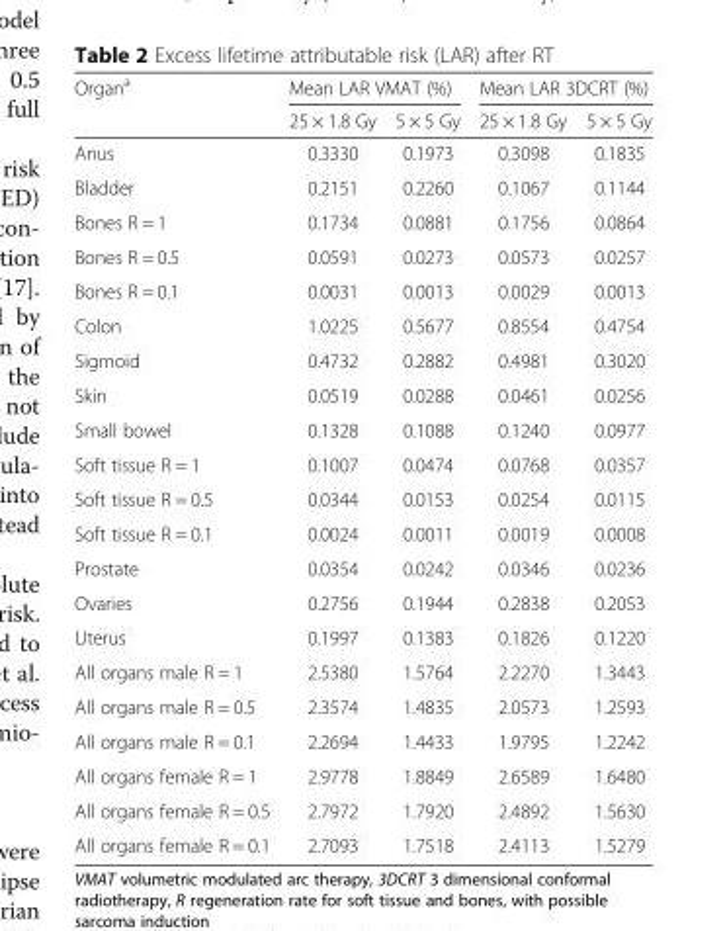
<table><thead><tr><td rowspan="2">Organ<sup>a</sup></td><td colspan="2">Mean LAR VMAT (%)</td><td colspan="2">Mean LAR 3DCRT (%)</td></tr><tr><td>25 × 1.8 Gy</td><td>5 × 5 Gy</td><td>25 × 1.8 Gy</td><td>5 × 5 Gy</td></tr></thead><tbody><tr><td>Anus</td><td>0.3330</td><td>0.1973</td><td>0.3098</td><td>0.1835</td></tr><tr><td>Bladder</td><td>0.2151</td><td>0.2260</td><td>0.1067</td><td>0.1144</td></tr><tr><td>Bones R = 1</td><td>0.1734</td><td>0.0881</td><td>0.1756</td><td>0.0864</td></tr><tr><td>Bones R = 0.5</td><td>0.0591</td><td>0.0273</td><td>0.0573</td><td>0.0257</td></tr><tr><td>Bones R = 0.1</td><td>0.0031</td><td>0.0013</td><td>0.0029</td><td>0.0013</td></tr><tr><td>Colon</td><td>1.0225</td><td>0.5677</td><td>0.8554</td><td>0.4754</td></tr><tr><td>Sigmoid</td><td>0.4732</td><td>0.2882</td><td>0.4981</td><td>0.3020</td></tr><tr><td>Skin</td><td>0.0519</td><td>0.0288</td><td>0.0461</td><td>0.0256</td></tr><tr><td>Small bowel</td><td>0.1328</td><td>0.1088</td><td>0.1240</td><td>0.0977</td></tr><tr><td>Soft tissue R = 1</td><td>0.1007</td><td>0.0474</td><td>0.0768</td><td>0.0357</td></tr><tr><td>Soft tissue R = 0.5</td><td>0.0344</td><td>0.0153</td><td>0.0254</td><td>0.0115</td></tr><tr><td>Soft tissue R = 0.1</td><td>0.0024</td><td>0.0011</td><td>0.0019</td><td>0.0008</td></tr><tr><td>Prostate</td><td>0.0354</td><td>0.0242</td><td>0.0346</td><td>0.0236</td></tr><tr><td>Ovaries</td><td>0.2756</td><td>0.1944</td><td>0.2838</td><td>0.2053</td></tr><tr><td>Uterus</td><td>0.1997</td><td>0.1383</td><td>0.1826</td><td>0.1220</td></tr><tr><td>All organs male R = 1</td><td>2.5380</td><td>1.5764</td><td>2.2270</td><td>1.3443</td></tr><tr><td>All organs male R = 0.5</td><td>2.3574</td><td>1.4835</td><td>2.0573</td><td>1.2593</td></tr><tr><td>All organs male R = 0.1</td><td>2.2694</td><td>1.4433</td><td>1.9795</td><td>1.2242</td></tr><tr><td>All organs female R = 1</td><td>2.9778</td><td>1.8849</td><td>2.6589</td><td>1.6480</td></tr><tr><td>All organs female R = 0.5</td><td>2.7972</td><td>1.7920</td><td>2.4892</td><td>1.5630</td></tr><tr><td>All organs female R = 0.1</td><td>2.7093</td><td>1.7518</td><td>2.4113</td><td>1.5279</td></tr></tbody></table>